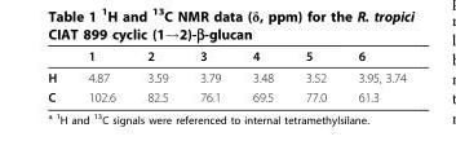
<table><thead><tr><td></td><td>1</td><td>2</td><td>3</td><td>4</td><td>5</td><td>6</td></tr></thead><tbody><tr><td>H</td><td>4.87</td><td>3.59</td><td>3.79</td><td>3.48</td><td>3.52</td><td>3.95, 3.74</td></tr><tr><td>C</td><td>102.6</td><td>82.5</td><td>76.1</td><td>69.5</td><td>77.0</td><td>61.3</td></tr></tbody></table>